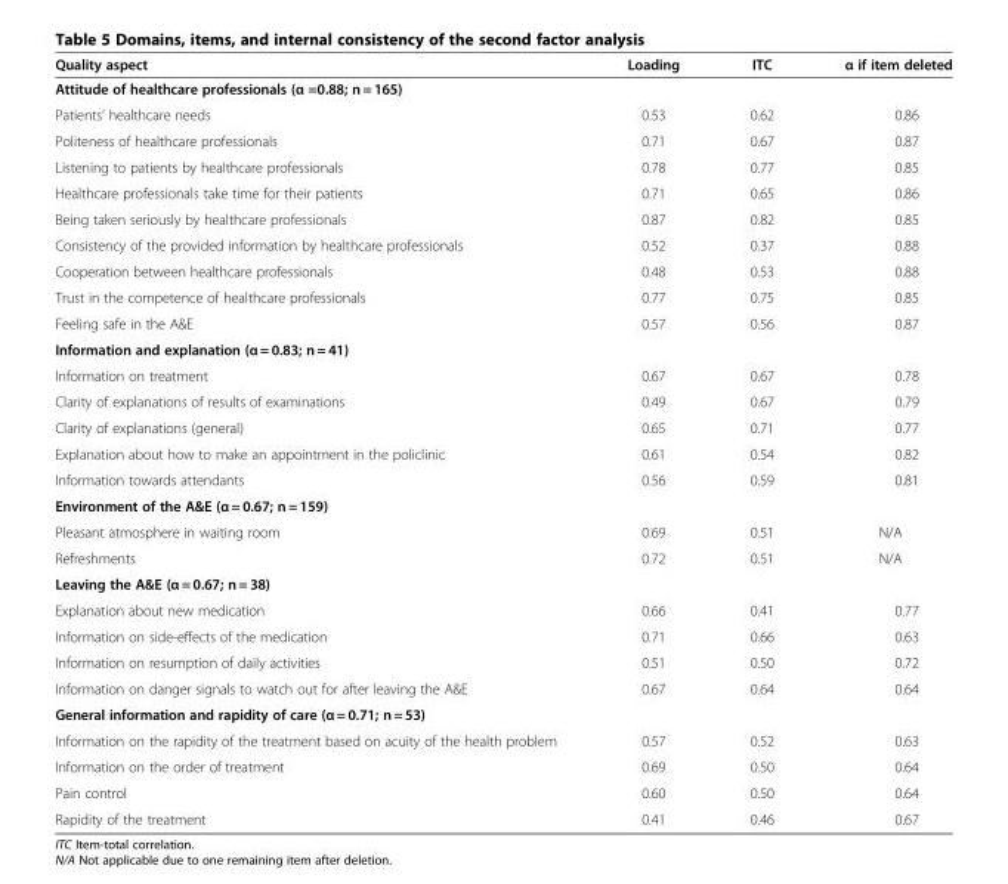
<table><thead><tr><td>Quality aspect</td><td>Loading</td><td>ITC</td><td>α if item deleted</td></tr></thead><tbody><tr><td colspan="4">Attitude of healthcare professionals (α =0.88; n = 165)</td></tr><tr><td>Patients’ healthcare needs</td><td>0.53</td><td>0.62</td><td>0.86</td></tr><tr><td>Politeness of healthcare professionals</td><td>0.71</td><td>0.67</td><td>0.87</td></tr><tr><td>Listening to patients by healthcare professionals</td><td>0.78</td><td>0.77</td><td>0.85</td></tr><tr><td>Healthcare professionals take time for their patients</td><td>0.71</td><td>0.65</td><td>0.86</td></tr><tr><td>Being taken seriously by healthcare professionals</td><td>0.87</td><td>0.82</td><td>0.85</td></tr><tr><td>Consistency of the provided information by healthcare professionals</td><td>0.52</td><td>0.37</td><td>0.88</td></tr><tr><td>Cooperation between healthcare professionals</td><td>0.48</td><td>0.53</td><td>0.88</td></tr><tr><td>Trust in the competence of healthcare professionals</td><td>0.77</td><td>0.75</td><td>0.85</td></tr><tr><td>Feeling safe in the A&amp;E</td><td>0.57</td><td>0.56</td><td>0.87</td></tr><tr><td colspan="4">Information and explanation (α = 0.83; n = 41)</td></tr><tr><td>Information on treatment</td><td>0.67</td><td>0.67</td><td>0.78</td></tr><tr><td>Clarity of explanations of results of examinations</td><td>0.49</td><td>0.67</td><td>0.79</td></tr><tr><td>Clarity of explanations (general)</td><td>0.65</td><td>0.71</td><td>0.77</td></tr><tr><td>Explanation about how to make an appointment in the policlinic</td><td>0.61</td><td>0.54</td><td>0.82</td></tr><tr><td>Information towards attendants</td><td>0.56</td><td>0.59</td><td>0.81</td></tr><tr><td colspan="4">Environment of the A&amp;E (α = 0.67; n = 159)</td></tr><tr><td>Pleasant atmosphere in waiting room</td><td>0.69</td><td>0.51</td><td>N/A</td></tr><tr><td>Refreshments</td><td>0.72</td><td>0.51</td><td>N/A</td></tr><tr><td colspan="4">Leaving the A&amp;E (α = 0.67; n = 38)</td></tr><tr><td>Explanation about new medication</td><td>0.66</td><td>0.41</td><td>0.77</td></tr><tr><td>Information on side-effects of the medication</td><td>0.71</td><td>0.66</td><td>0.63</td></tr><tr><td>Information on resumption of daily activities</td><td>0.51</td><td>0.50</td><td>0.72</td></tr><tr><td>Information on danger signals to watch out for after leaving the A&amp;E</td><td>0.67</td><td>0.64</td><td>0.64</td></tr><tr><td colspan="4">General information and rapidity of care (α = 0.71; n = 53)</td></tr><tr><td>Information on the rapidity of the treatment based on acuity of the health problem</td><td>0.57</td><td>0.52</td><td>0.63</td></tr><tr><td>Information on the order of treatment</td><td>0.69</td><td>0.50</td><td>0.64</td></tr><tr><td>Pain control</td><td>0.60</td><td>0.50</td><td>0.64</td></tr><tr><td>Rapidity of the treatment</td><td>0.41</td><td>0.46</td><td>0.67</td></tr></tbody></table>